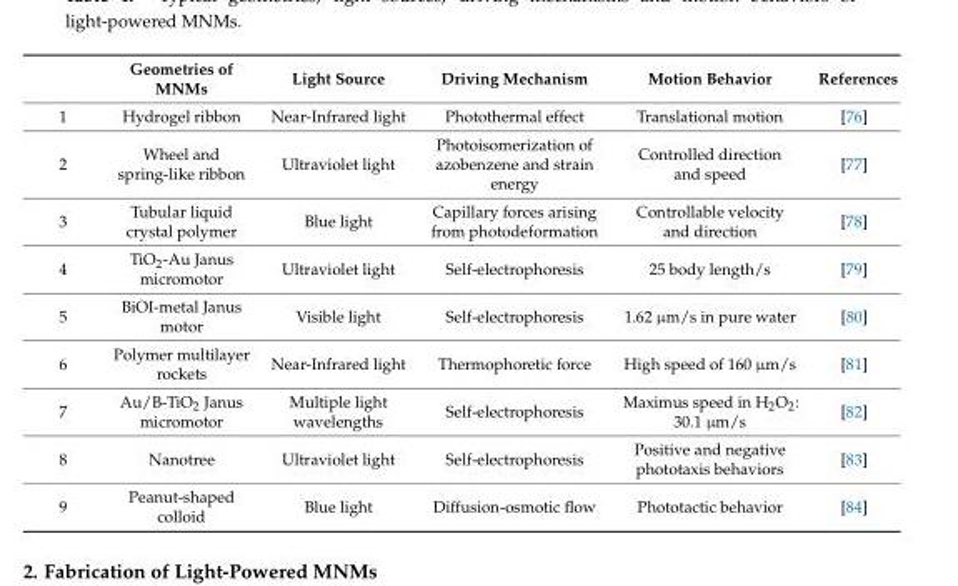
<table><thead><tr><td></td><td>Geometries of MNMs</td><td>Light Source</td><td>Driving Mechanism</td><td>Motion Behavior</td><td>References</td></tr></thead><tbody><tr><td>1</td><td>Hydrogel ribbon</td><td>Near-Infrared light</td><td>Photothermal effect</td><td>Translational motion</td><td>[76]</td></tr><tr><td>2</td><td>Wheel and spring-like ribbon</td><td>Ultraviolet light</td><td>Photoisomerization of azobenzene and strain energy</td><td>Controlled direction and speed</td><td>[77]</td></tr><tr><td>3</td><td>Tubular liquid crystal polymer</td><td>Blue light</td><td>Capillary forces arising from photodeformation</td><td>Controllable velocity and direction</td><td>[78]</td></tr><tr><td>4</td><td>TiO<sub>2</sub>-Au Janus micromotor</td><td>Ultraviolet light</td><td>Self-electrophoresis</td><td>25 body length/s</td><td>[79]</td></tr><tr><td>5</td><td>BiOI-metal Janus motor</td><td>Visible light</td><td>Self-electrophoresis</td><td>1.62 µm/s in pure water</td><td>[80]</td></tr><tr><td>6</td><td>Polymer multilayer rockets</td><td>Near-Infrared light</td><td>Thermophoretic force</td><td>High speed of 160 µm/s</td><td>[81]</td></tr><tr><td>7</td><td>Au/B-TiO<sub>2</sub> Janus micromotor</td><td>Multiple light wavelengths</td><td>Self-electrophoresis</td><td>Maximus speed in H<sub>2</sub>O<sub>2</sub>: 30.1 µm/s</td><td>[82]</td></tr><tr><td>8</td><td>Nanotree</td><td>Ultraviolet light</td><td>Self-electrophoresis</td><td>Positive and negative phototaxis behaviors</td><td>[83]</td></tr><tr><td>9</td><td>Peanut-shaped colloid</td><td>Blue light</td><td>Diffusion-osmotic flow</td><td>Phototactic behavior</td><td>[84]</td></tr></tbody></table>